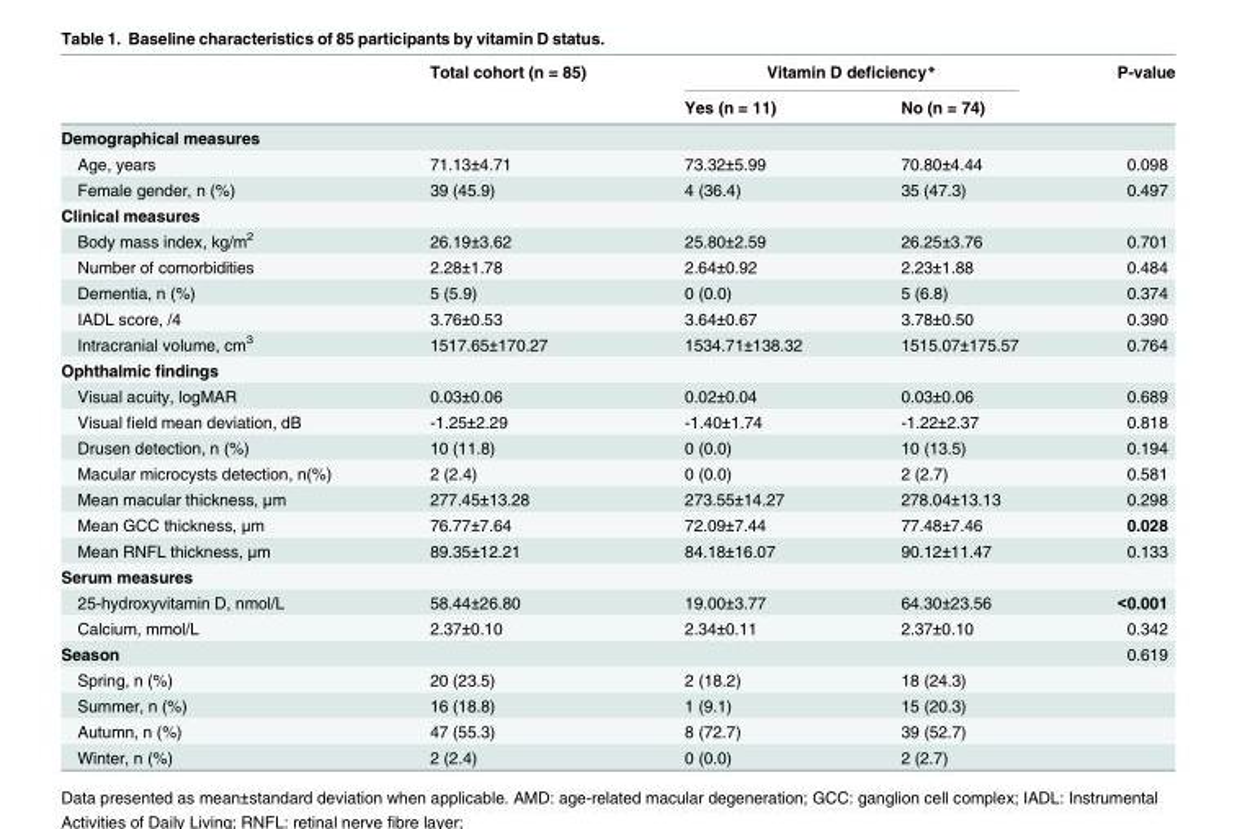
<table><thead><tr><td rowspan="2"></td><td rowspan="2">Total cohort (n = 85)</td><td colspan="2">Vitamin D deficiency*</td><td rowspan="2">P-value</td></tr><tr><td>Yes (n = 11)</td><td>No (n = 74)</td></tr></thead><tbody><tr><td colspan="5">Demographical measures</td></tr><tr><td>Age, years</td><td>71.13±4.71</td><td>73.32±5.99</td><td>70.80±4.44</td><td>0.098</td></tr><tr><td>Female gender, n (%)</td><td>39 (45.9)</td><td>4 (36.4)</td><td>35 (47.3)</td><td>0.497</td></tr><tr><td colspan="5">Clinical measures</td></tr><tr><td>Body mass index, kg/m<sup>2</sup></td><td>26.19±3.62</td><td>25.80±2.59</td><td>26.25±3.76</td><td>0.701</td></tr><tr><td>Number of comorbidities</td><td>2.28±1.78</td><td>2.64±0.92</td><td>2.23±1.88</td><td>0.484</td></tr><tr><td>Dementia, n (%)</td><td>5 (5.9)</td><td>0 (0.0)</td><td>5 (6.8)</td><td>0.374</td></tr><tr><td>IADL score, /4</td><td>3.76±0.53</td><td>3.64±0.67</td><td>3.78±0.50</td><td>0.390</td></tr><tr><td>Intracranial volume, cm<sup>3</sup></td><td>1517.65±170.27</td><td>1534.71±138.32</td><td>1515.07±175.57</td><td>0.764</td></tr><tr><td colspan="5">Ophthalmic findings</td></tr><tr><td>Visual acuity, logMAR</td><td>0.03±0.06</td><td>0.02±0.04</td><td>0.03±0.06</td><td>0.689</td></tr><tr><td>Visual field mean deviation, dB</td><td>-1.25±2.29</td><td>-1.40±1.74</td><td>-1.22±2.37</td><td>0.818</td></tr><tr><td>Drusen detection, n (%)</td><td>10 (11.8)</td><td>0 (0.0)</td><td>10 (13.5)</td><td>0.194</td></tr><tr><td>Macular microcysts detection, n(%)</td><td>2 (2.4)</td><td>0 (0.0)</td><td>2 (2.7)</td><td>0.581</td></tr><tr><td>Mean macular thickness, μm</td><td>277.45±13.28</td><td>273.55±14.27</td><td>278.04±13.13</td><td>0.298</td></tr><tr><td>Mean GCC thickness, μm</td><td>76.77±7.64</td><td>72.09±7.44</td><td>77.48±7.46</td><td>0.028</td></tr><tr><td>Mean RNFL thickness, μm</td><td>89.35±12.21</td><td>84.18±16.07</td><td>90.12±11.47</td><td>0.133</td></tr><tr><td colspan="5">Serum measures</td></tr><tr><td>25-hydroxyvitamin D, nmol/L</td><td>58.44±26.80</td><td>19.00±3.77</td><td>64.30±23.56</td><td>&lt;0.001</td></tr><tr><td>Calcium, mmol/L</td><td>2.37±0.10</td><td>2.34±0.11</td><td>2.37±0.10</td><td>0.342</td></tr><tr><td>Season</td><td></td><td></td><td></td><td>0.619</td></tr><tr><td>Spring, n (%)</td><td>20 (23.5)</td><td>2 (18.2)</td><td>18 (24.3)</td><td></td></tr><tr><td>Summer, n (%)</td><td>16 (18.8)</td><td>1 (9.1)</td><td>15 (20.3)</td><td></td></tr><tr><td>Autumn, n (%)</td><td>47 (55.3)</td><td>8 (72.7)</td><td>39 (52.7)</td><td></td></tr><tr><td>Winter, n (%)</td><td>2 (2.4)</td><td>0 (0.0)</td><td>2 (2.7)</td><td></td></tr></tbody></table>